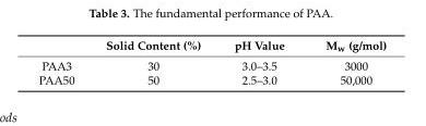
<table><thead><tr><td></td><td>Solid Content (%)</td><td>pH Value</td><td>M<sub>w</sub> (g/mol)</td></tr></thead><tbody><tr><td>PAA3</td><td>30</td><td>3.0–3.5</td><td>3000</td></tr><tr><td>PAA50</td><td>50</td><td>2.5–3.0</td><td>50,000</td></tr></tbody></table>